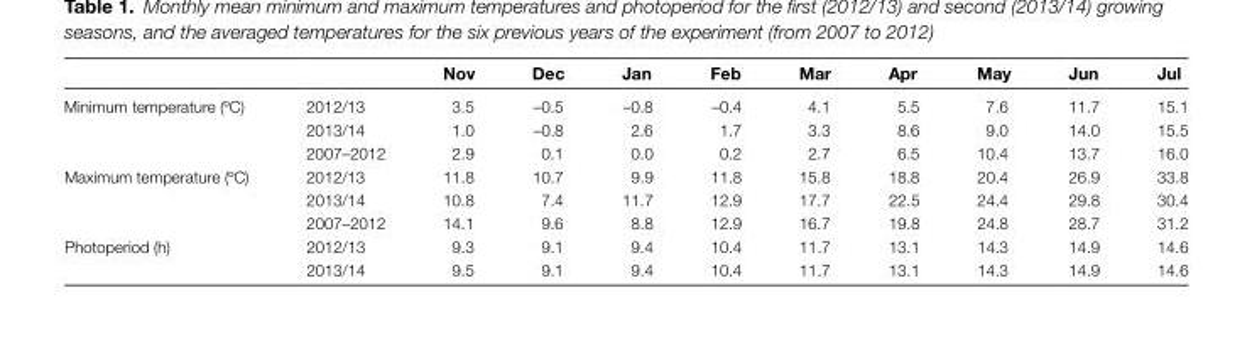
<table><thead><tr><td></td><td></td><td>Nov</td><td>Dec</td><td>Jan</td><td>Feb</td><td>Mar</td><td>Apr</td><td>May</td><td>Jun</td><td>Jul</td></tr></thead><tbody><tr><td rowspan="3">Minimum temperature (ºC)</td><td>2012/13</td><td>3.5</td><td>–0.5</td><td>–0.8</td><td>–0.4</td><td>4.1</td><td>5.5</td><td>7.6</td><td>11.7</td><td>15.1</td></tr><tr><td>2013/14</td><td>1.0</td><td>–0.8</td><td>2.6</td><td>1.7</td><td>3.3</td><td>8.6</td><td>9.0</td><td>14.0</td><td>15.5</td></tr><tr><td>2007–2012</td><td>2.9</td><td>0.1</td><td>0.0</td><td>0.2</td><td>2.7</td><td>6.5</td><td>10.4</td><td>13.7</td><td>16.0</td></tr><tr><td rowspan="3">Maximum temperature (ºC)</td><td>2012/13</td><td>11.8</td><td>10.7</td><td>9.9</td><td>11.8</td><td>15.8</td><td>18.8</td><td>20.4</td><td>26.9</td><td>33.8</td></tr><tr><td>2013/14</td><td>10.8</td><td>7.4</td><td>11.7</td><td>12.9</td><td>17.7</td><td>22.5</td><td>24.4</td><td>29.8</td><td>30.4</td></tr><tr><td>2007–2012</td><td>14.1</td><td>9.6</td><td>8.8</td><td>12.9</td><td>16.7</td><td>19.8</td><td>24.8</td><td>28.7</td><td>31.2</td></tr><tr><td rowspan="2">Photoperiod (h)</td><td>2012/13</td><td>9.3</td><td>9.1</td><td>9.4</td><td>10.4</td><td>11.7</td><td>13.1</td><td>14.3</td><td>14.9</td><td>14.6</td></tr><tr><td>2013/14</td><td>9.5</td><td>9.1</td><td>9.4</td><td>10.4</td><td>11.7</td><td>13.1</td><td>14.3</td><td>14.9</td><td>14.6</td></tr></tbody></table>